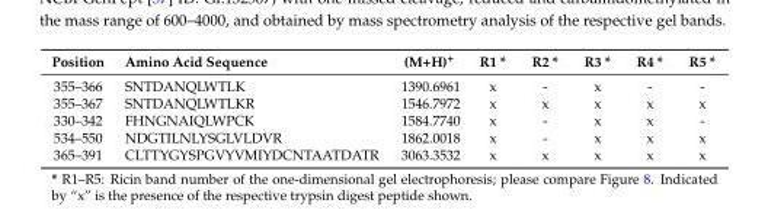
<table><thead><tr><td>Position</td><td>Amino Acid Sequence</td><td>(M+H)<sup>+</sup></td><td>R1 *</td><td>R2 *</td><td>R3 *</td><td>R4 *</td><td>R5 *</td></tr></thead><tbody><tr><td>355–366</td><td>SNTDANQLWTLK</td><td>1390.6961</td><td>x</td><td>-</td><td>x</td><td>-</td><td>-</td></tr><tr><td>355–367</td><td>SNTDANQLWTLKR</td><td>1546.7972</td><td>x</td><td>x</td><td>x</td><td>x</td><td>x</td></tr><tr><td>330–342</td><td>FHNGNAIQLWPCK</td><td>1584.7740</td><td>x</td><td>-</td><td>x</td><td>x</td><td>-</td></tr><tr><td>534–550</td><td>NDGTILNLYSGLVLDVR</td><td>1862.0018</td><td>x</td><td>-</td><td>x</td><td>x</td><td>x</td></tr><tr><td>365–391</td><td>CLTTYGYSPGVYVMIYDCNTAATDATR</td><td>3063.3532</td><td>x</td><td>x</td><td>x</td><td>x</td><td>x</td></tr></tbody></table>